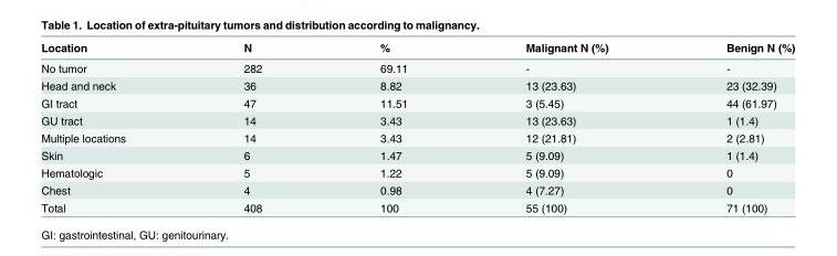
<table><thead><tr><td>Location</td><td>N</td><td>%</td><td>Malignant N (%)</td><td>Benign N (%)</td></tr></thead><tbody><tr><td>No tumor</td><td>282</td><td>69.11</td><td>-</td><td>-</td></tr><tr><td>Head and neck</td><td>36</td><td>8.82</td><td>13 (23.63)</td><td>23 (32.39)</td></tr><tr><td>GI tract</td><td>47</td><td>11.51</td><td>3 (5.45)</td><td>44 (61.97)</td></tr><tr><td>GU tract</td><td>14</td><td>3.43</td><td>13 (23.63)</td><td>1 (1.4)</td></tr><tr><td>Multiple locations</td><td>14</td><td>3.43</td><td>12 (21.81)</td><td>2 (2.81)</td></tr><tr><td>Skin</td><td>6</td><td>1.47</td><td>5 (9.09)</td><td>1 (1.4)</td></tr><tr><td>Hematologic</td><td>5</td><td>1.22</td><td>5 (9.09)</td><td>0</td></tr><tr><td>Chest</td><td>4</td><td>0.98</td><td>4 (7.27)</td><td>0</td></tr><tr><td>Total</td><td>408</td><td>100</td><td>55 (100)</td><td>71 (100)</td></tr></tbody></table>